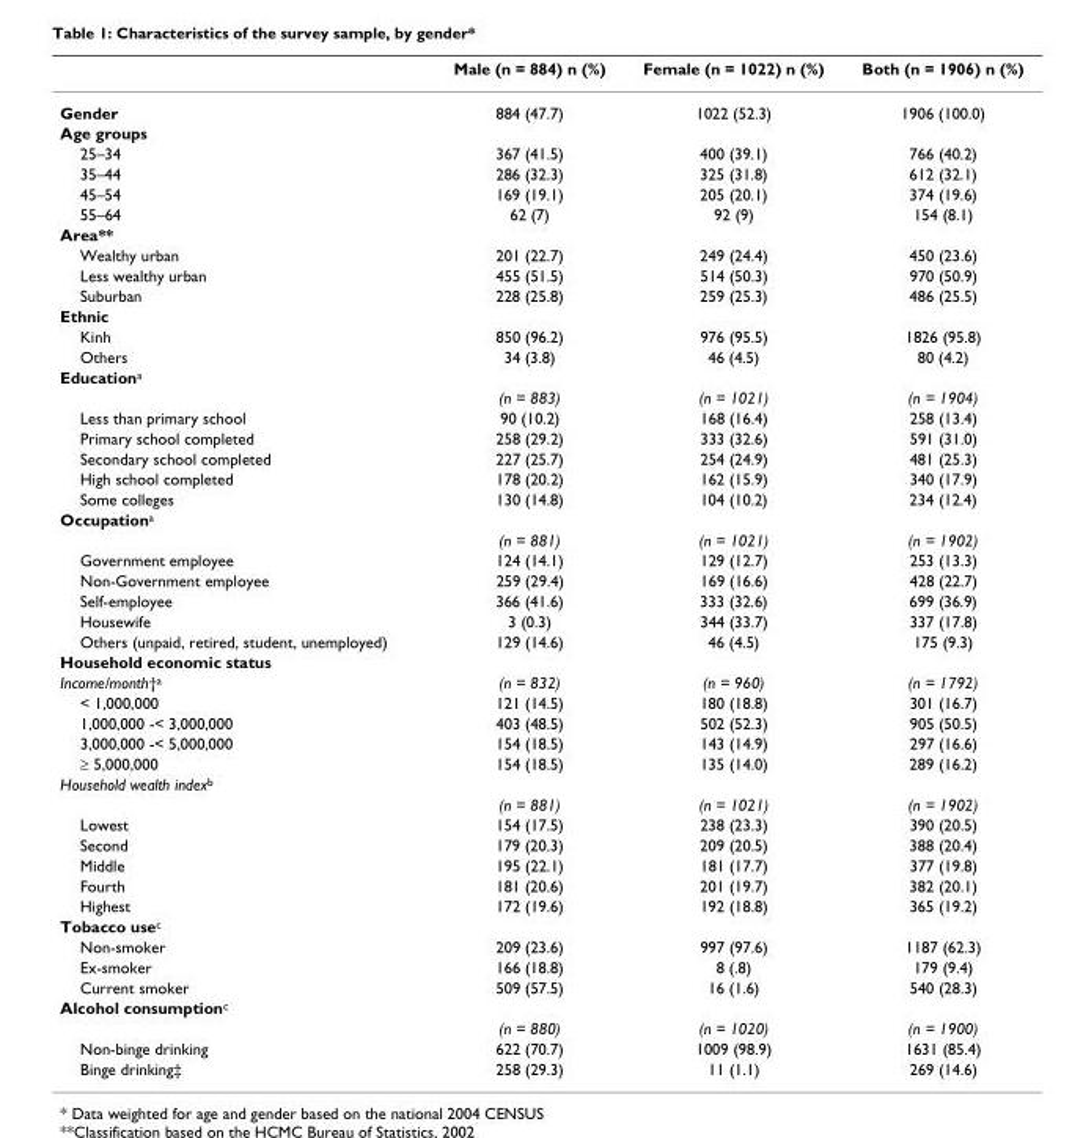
<table><thead><tr><td></td><td>Male (n = 884) n (%)</td><td>Female (n = 1022) n (%)</td><td>Both (n = 1906) n (%)</td></tr></thead><tbody><tr><td>Gender</td><td>884 (47.7)</td><td>1022 (52.3)</td><td>1906 (100.0)</td></tr><tr><td colspan="4">Age groups</td></tr><tr><td>25–34</td><td>367 (41.5)</td><td>400 (39.1)</td><td>766 (40.2)</td></tr><tr><td>35–44</td><td>286 (32.3)</td><td>325 (31.8)</td><td>612 (32.1)</td></tr><tr><td>45–54</td><td>169 (19.1)</td><td>205 (20.1)</td><td>374 (19.6)</td></tr><tr><td>55–64</td><td>62 (7)</td><td>92 (9)</td><td>154 (8.1)</td></tr><tr><td colspan="4">Area**</td></tr><tr><td>Wealthy urban</td><td>201 (22.7)</td><td>249 (24.4)</td><td>450 (23.6)</td></tr><tr><td>Less wealthy urban</td><td>455 (51.5)</td><td>514 (50.3)</td><td>970 (50.9)</td></tr><tr><td>Suburban</td><td>228 (25.8)</td><td>259 (25.3)</td><td>486 (25.5)</td></tr><tr><td colspan="4">Ethnic</td></tr><tr><td>Kinh</td><td>850 (96.2)</td><td>976 (95.5)</td><td>1826 (95.8)</td></tr><tr><td>Others</td><td>34 (3.8)</td><td>46 (4.5)</td><td>80 (4.2)</td></tr><tr><td colspan="4">Education<sup>a</sup></td></tr><tr><td></td><td>(n = 883)</td><td>(n = 1021)</td><td>(n = 1904)</td></tr><tr><td>Less than primary school</td><td>90 (10.2)</td><td>168 (16.4)</td><td>258 (13.4)</td></tr><tr><td>Primary school completed</td><td>258 (29.2)</td><td>333 (32.6)</td><td>591 (31.0)</td></tr><tr><td>Secondary school completed</td><td>227 (25.7)</td><td>254 (24.9)</td><td>481 (25.3)</td></tr><tr><td>High school completed</td><td>178 (20.2)</td><td>162 (15.9)</td><td>340 (17.9)</td></tr><tr><td>Some colleges</td><td>130 (14.8)</td><td>104 (10.2)</td><td>234 (12.4)</td></tr><tr><td colspan="4">Occupation<sup>a</sup></td></tr><tr><td></td><td>(n = 881)</td><td>(n = 1021)</td><td>(n = 1902)</td></tr><tr><td>Government employee</td><td>124 (14.1)</td><td>129 (12.7)</td><td>253 (13.3)</td></tr><tr><td>Non-Government employee</td><td>259 (29.4)</td><td>169 (16.6)</td><td>428 (22.7)</td></tr><tr><td>Self-employee</td><td>366 (41.6)</td><td>333 (32.6)</td><td>699 (36.9)</td></tr><tr><td>Housewife</td><td>3 (0.3)</td><td>344 (33.7)</td><td>337 (17.8)</td></tr><tr><td>Others (unpaid, retired, student, unemployed)</td><td>129 (14.6)</td><td>46 (4.5)</td><td>175 (9.3)</td></tr><tr><td colspan="4">Household economic status</td></tr><tr><td>Income/month†<sup>a</sup></td><td>(n = 832)</td><td>(n = 960)</td><td>(n = 1792)</td></tr><tr><td>&lt; 1,000,000</td><td>121 (14.5)</td><td>180 (18.8)</td><td>301 (16.7)</td></tr><tr><td>1,000,000 -&lt; 3,000,000</td><td>403 (48.5)</td><td>502 (52.3)</td><td>905 (50.5)</td></tr><tr><td>3,000,000 -&lt; 5,000,000</td><td>154 (18.5)</td><td>143 (14.9)</td><td>297 (16.6)</td></tr><tr><td>≥ 5,000,000</td><td>154 (18.5)</td><td>135 (14.0)</td><td>289 (16.2)</td></tr><tr><td colspan="4">Household wealth index<sup>b</sup></td></tr><tr><td></td><td>(n = 881)</td><td>(n = 1021)</td><td>(n = 1902)</td></tr><tr><td>Lowest</td><td>154 (17.5)</td><td>238 (23.3)</td><td>390 (20.5)</td></tr><tr><td>Second</td><td>179 (20.3)</td><td>209 (20.5)</td><td>388 (20.4)</td></tr><tr><td>Middle</td><td>195 (22.1)</td><td>181 (17.7)</td><td>377 (19.8)</td></tr><tr><td>Fourth</td><td>181 (20.6)</td><td>201 (19.7)</td><td>382 (20.1)</td></tr><tr><td>Highest</td><td>172 (19.6)</td><td>192 (18.8)</td><td>365 (19.2)</td></tr><tr><td colspan="4">Tobacco use<sup>c</sup></td></tr><tr><td>Non-smoker</td><td>209 (23.6)</td><td>997 (97.6)</td><td>1187 (62.3)</td></tr><tr><td>Ex-smoker</td><td>166 (18.8)</td><td>8 (.8)</td><td>179 (9.4)</td></tr><tr><td>Current smoker</td><td>509 (57.5)</td><td>16 (1.6)</td><td>540 (28.3)</td></tr><tr><td colspan="4">Alcohol consumption<sup>c</sup></td></tr><tr><td></td><td>(n = 880)</td><td>(n = 1020)</td><td>(n = 1900)</td></tr><tr><td>Non-binge drinking</td><td>622 (70.7)</td><td>1009 (98.9)</td><td>1631 (85.4)</td></tr><tr><td>Binge drinking‡</td><td>258 (29.3)</td><td>11 (1.1)</td><td>269 (14.6)</td></tr></tbody></table>